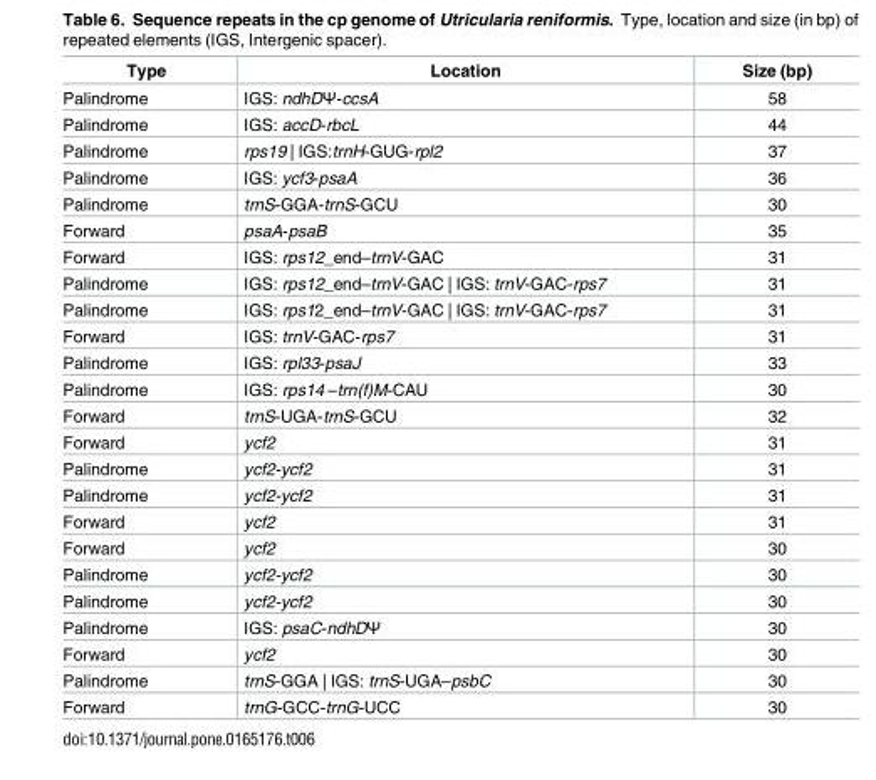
<table><thead><tr><td>Type</td><td>Location</td><td>Size (bp)</td></tr></thead><tbody><tr><td>Palindrome</td><td>IGS: ndhDΨ-ccsA</td><td>58</td></tr><tr><td>Palindrome</td><td>IGS: accD-rbcL</td><td>44</td></tr><tr><td>Palindrome</td><td>rps19 | IGS:trnH-GUG-rpl2</td><td>37</td></tr><tr><td>Palindrome</td><td>IGS: ycf3-psaA</td><td>36</td></tr><tr><td>Palindrome</td><td>trnS-GGA-trnS-GCU</td><td>30</td></tr><tr><td>Forward</td><td>psaA-psaB</td><td>35</td></tr><tr><td>Forward</td><td>IGS: rps12_end–trnV-GAC</td><td>31</td></tr><tr><td>Palindrome</td><td>IGS: rps12_end–trnV-GAC | IGS: trnV-GAC-rps7</td><td>31</td></tr><tr><td>Palindrome</td><td>IGS: rps12_end–trnV-GAC | IGS: trnV-GAC-rps7</td><td>31</td></tr><tr><td>Forward</td><td>IGS: trnV-GAC-rps7</td><td>31</td></tr><tr><td>Palindrome</td><td>IGS: rpl33-psaJ</td><td>33</td></tr><tr><td>Palindrome</td><td>IGS: rps14 –trn(f)M-CAU</td><td>30</td></tr><tr><td>Forward</td><td>trnS-UGA-trnS-GCU</td><td>32</td></tr><tr><td>Forward</td><td>ycf2</td><td>31</td></tr><tr><td>Palindrome</td><td>ycf2-ycf2</td><td>31</td></tr><tr><td>Palindrome</td><td>ycf2-ycf2</td><td>31</td></tr><tr><td>Forward</td><td>ycf2</td><td>31</td></tr><tr><td>Forward</td><td>ycf2</td><td>30</td></tr><tr><td>Palindrome</td><td>ycf2-ycf2</td><td>30</td></tr><tr><td>Palindrome</td><td>ycf2-ycf2</td><td>30</td></tr><tr><td>Palindrome</td><td>IGS: psaC-ndhDΨ</td><td>30</td></tr><tr><td>Forward</td><td>ycf2</td><td>30</td></tr><tr><td>Palindrome</td><td>trnS-GGA | IGS: trnS-UGA–psbC</td><td>30</td></tr><tr><td>Forward</td><td>trnG-GCC-trnG-UCC</td><td>30</td></tr></tbody></table>